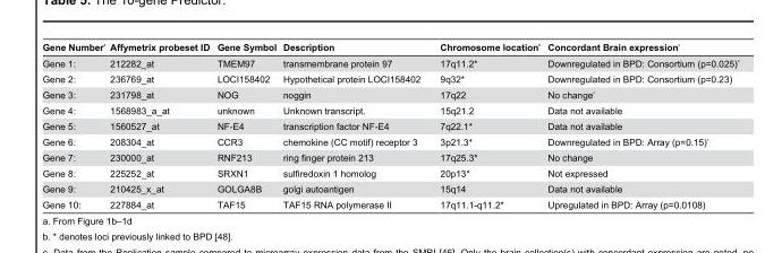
<table><thead><tr><td>Gene Number <sup>a</sup></td><td>Affymetrix probeset ID</td><td>Gene Symbol</td><td>Description</td><td>Chromosome location <sup>b</sup></td><td>Concordant Brain expression <sup>c</sup></td></tr></thead><tbody><tr><td>Gene 1:</td><td>212282_at</td><td>TMEM97</td><td>transmembrane protein 97</td><td>17q11.2*</td><td>Downregulated in BPD: Consortium (p=0.025) <sup>d</sup></td></tr><tr><td>Gene 2:</td><td>236769_at</td><td>LOCI158402</td><td>Hypothetical protein LOCI158402</td><td>9q32*</td><td>Downregulated in BPD: Consortium (p=0.23)</td></tr><tr><td>Gene 3:</td><td>231798_at</td><td>NOG</td><td>noggin</td><td>17q22</td><td>No change <sup>e</sup></td></tr><tr><td>Gene 4:</td><td>1568983_a_at</td><td>unknown</td><td>Unknown transcript.</td><td>15q21.2</td><td>Data not available</td></tr><tr><td>Gene 5:</td><td>1560527_at</td><td>NF-E4</td><td>transcription factor NF-E4</td><td>7q22.1*</td><td>Data not available</td></tr><tr><td>Gene 6:</td><td>208304_at</td><td>CCR3</td><td>chemokine (CC motif) receptor 3</td><td>3p21.3*</td><td>Downregulated in BPD: Array (p=0.15) <sup>e</sup></td></tr><tr><td>Gene 7:</td><td>230000_at</td><td>RNF213</td><td>ring finger protein 213</td><td>17q25.3*</td><td>No change</td></tr><tr><td>Gene 8:</td><td>225252_at</td><td>SRXN1</td><td>sulfiredoxin 1 homolog</td><td>20p13*</td><td>Not expressed</td></tr><tr><td>Gene 9:</td><td>210425_x_at</td><td>GOLGA8B</td><td>golgi autoantigen</td><td>15q14</td><td>Data not available</td></tr><tr><td>Gene 10:</td><td>227884_at</td><td>TAF15</td><td>TAF15 RNA polymerase II</td><td>17q11.1-q11.2*</td><td>Upregulated in BPD: Array (p=0.0108)</td></tr></tbody></table>